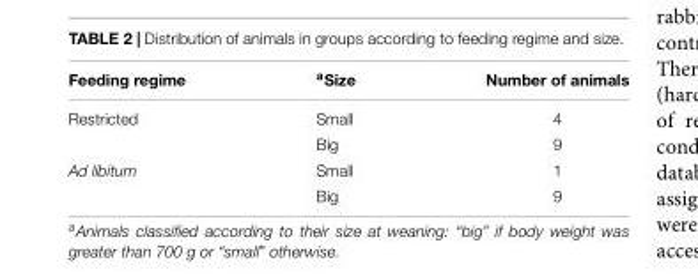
<table><thead><tr><td>Feeding regime</td><td><sup>a</sup>Size</td><td>Number of animals</td></tr></thead><tbody><tr><td rowspan="2">Restricted</td><td>Small</td><td>4</td></tr><tr><td>Big</td><td>9</td></tr><tr><td rowspan="2">Ad libitum</td><td>Small</td><td>1</td></tr><tr><td>Big</td><td>9</td></tr></tbody></table>